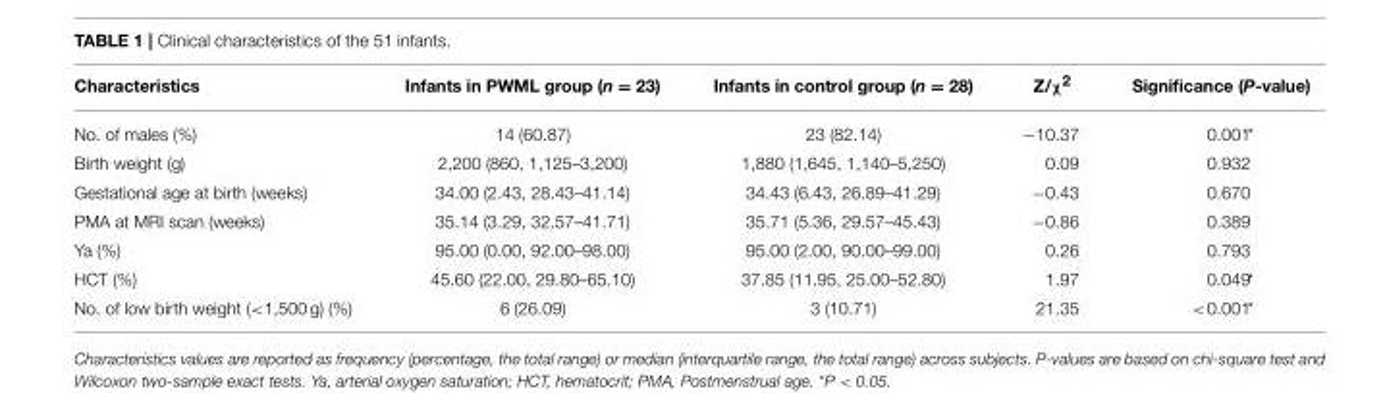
<table><thead><tr><td>Characteristics</td><td>Infants in PWML group (n = 23)</td><td>Infants in control group (n = 28)</td><td>Z/χ<sup>2</sup></td><td>Significance (P-value)</td></tr></thead><tbody><tr><td>No. of males (%)</td><td>14 (60.87)</td><td>23 (82.14)</td><td>−10.37</td><td>0.001*</td></tr><tr><td>Birth weight (g)</td><td>2,200 (860, 1,125–3,200)</td><td>1,880 (1,645, 1,140–5,250)</td><td>0.09</td><td>0.932</td></tr><tr><td>Gestational age at birth (weeks)</td><td>34.00 (2.43, 28.43–41.14)</td><td>34.43 (6.43, 26.89–41.29)</td><td>−0.43</td><td>0.670</td></tr><tr><td>PMA at MRI scan (weeks)</td><td>35.14 (3.29, 32.57–41.71)</td><td>35.71 (5.36, 29.57–45.43)</td><td>−0.86</td><td>0.389</td></tr><tr><td>Ya (%)</td><td>95.00 (0.00, 92.00–98.00)</td><td>95.00 (2.00, 90.00–99.00)</td><td>0.26</td><td>0.793</td></tr><tr><td>HCT (%)</td><td>45.60 (22.00, 29.80–65.10)</td><td>37.85 (11.95, 25.00–52.80)</td><td>1.97</td><td>0.049*</td></tr><tr><td>No. of low birth weight (&lt;1,500 g) (%)</td><td>6 (26.09)</td><td>3 (10.71)</td><td>21.35</td><td>&lt;0.001*</td></tr></tbody></table>